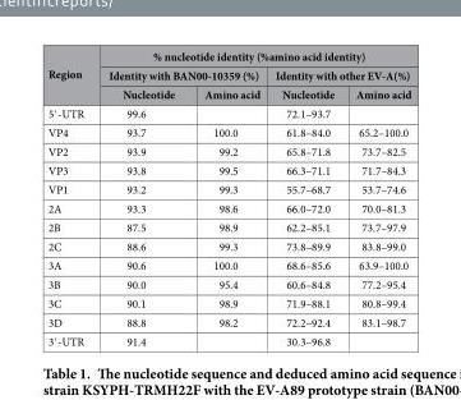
<table><thead><tr><td rowspan="3">Region</td><td colspan="4">% nucleotide identity (%amino acid identity)</td></tr><tr><td colspan="2">Identity with BAN00-10359 (%)</td><td colspan="2">Identity with other EV-A(%)</td></tr><tr><td>Nucleotide</td><td>Amino acid</td><td>Nucleotide</td><td>Amino acid</td></tr></thead><tbody><tr><td>5′ -UTR</td><td>99.6</td><td></td><td>72.1–93.7</td><td></td></tr><tr><td>VP4</td><td>93.7</td><td>100.0</td><td>61.8–84.0</td><td>65.2–100.0</td></tr><tr><td>VP2</td><td>93.9</td><td>99.2</td><td>65.8–71.8</td><td>73.7–82.5</td></tr><tr><td>VP3</td><td>93.8</td><td>99.5</td><td>66.3–71.1</td><td>71.7–84.3</td></tr><tr><td>VP1</td><td>93.2</td><td>99.3</td><td>55.7–68.7</td><td>53.7–74.6</td></tr><tr><td>2A</td><td>93.3</td><td>98.6</td><td>66.0–72.0</td><td>70.0–81.3</td></tr><tr><td>2B</td><td>87.5</td><td>98.9</td><td>62.2–85.1</td><td>73.7–97.9</td></tr><tr><td>2C</td><td>88.6</td><td>99.3</td><td>73.8–89.9</td><td>83.8–99.0</td></tr><tr><td>3A</td><td>90.6</td><td>100.0</td><td>68.6–85.6</td><td>63.9–100.0</td></tr><tr><td>3B</td><td>90.0</td><td>95.4</td><td>60.6–84.8</td><td>77.2–95.4</td></tr><tr><td>3C</td><td>90.1</td><td>98.9</td><td>71.9–88.1</td><td>80.8–99.4</td></tr><tr><td>3D</td><td>88.8</td><td>98.2</td><td>72.2–92.4</td><td>83.1–98.7</td></tr><tr><td>3′ -UTR</td><td>91.4</td><td></td><td>30.3–96.8</td><td></td></tr></tbody></table>